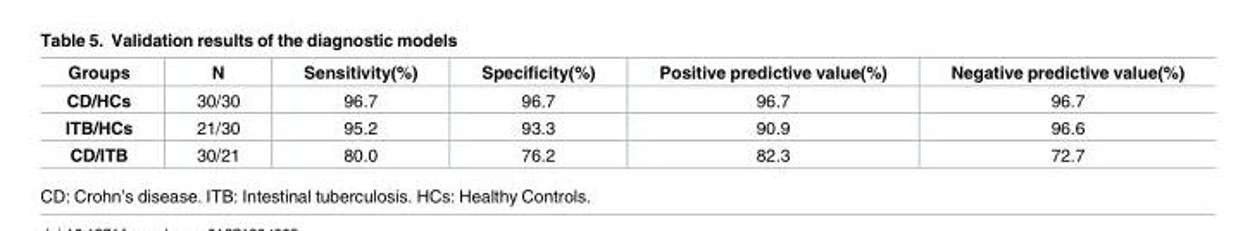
<table><thead><tr><td>Groups</td><td>N</td><td>Sensitivity(%)</td><td>Specificity(%)</td><td>Positive predictive value(%)</td><td>Negative predictive value(%)</td></tr></thead><tbody><tr><td>CD/HCs</td><td>30/30</td><td>96.7</td><td>96.7</td><td>96.7</td><td>96.7</td></tr><tr><td>ITB/HCs</td><td>21/30</td><td>95.2</td><td>93.3</td><td>90.9</td><td>96.6</td></tr><tr><td>CD/ITB</td><td>30/21</td><td>80.0</td><td>76.2</td><td>82.3</td><td>72.7</td></tr></tbody></table>